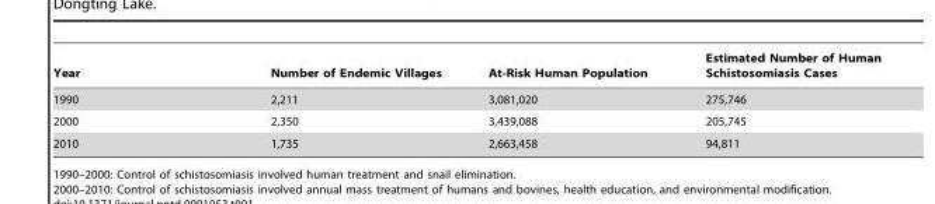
<table><thead><tr><td>Year</td><td>Number of Endemic Villages</td><td>At-Risk Human Population</td><td>Estimated Number of Human Schistosomiasis Cases</td></tr></thead><tbody><tr><td>1990</td><td>2,211</td><td>3,081,020</td><td>275,746</td></tr><tr><td>2000</td><td>2,350</td><td>3,439,088</td><td>205,745</td></tr><tr><td>2010</td><td>1,735</td><td>2,663,458</td><td>94,811</td></tr></tbody></table>